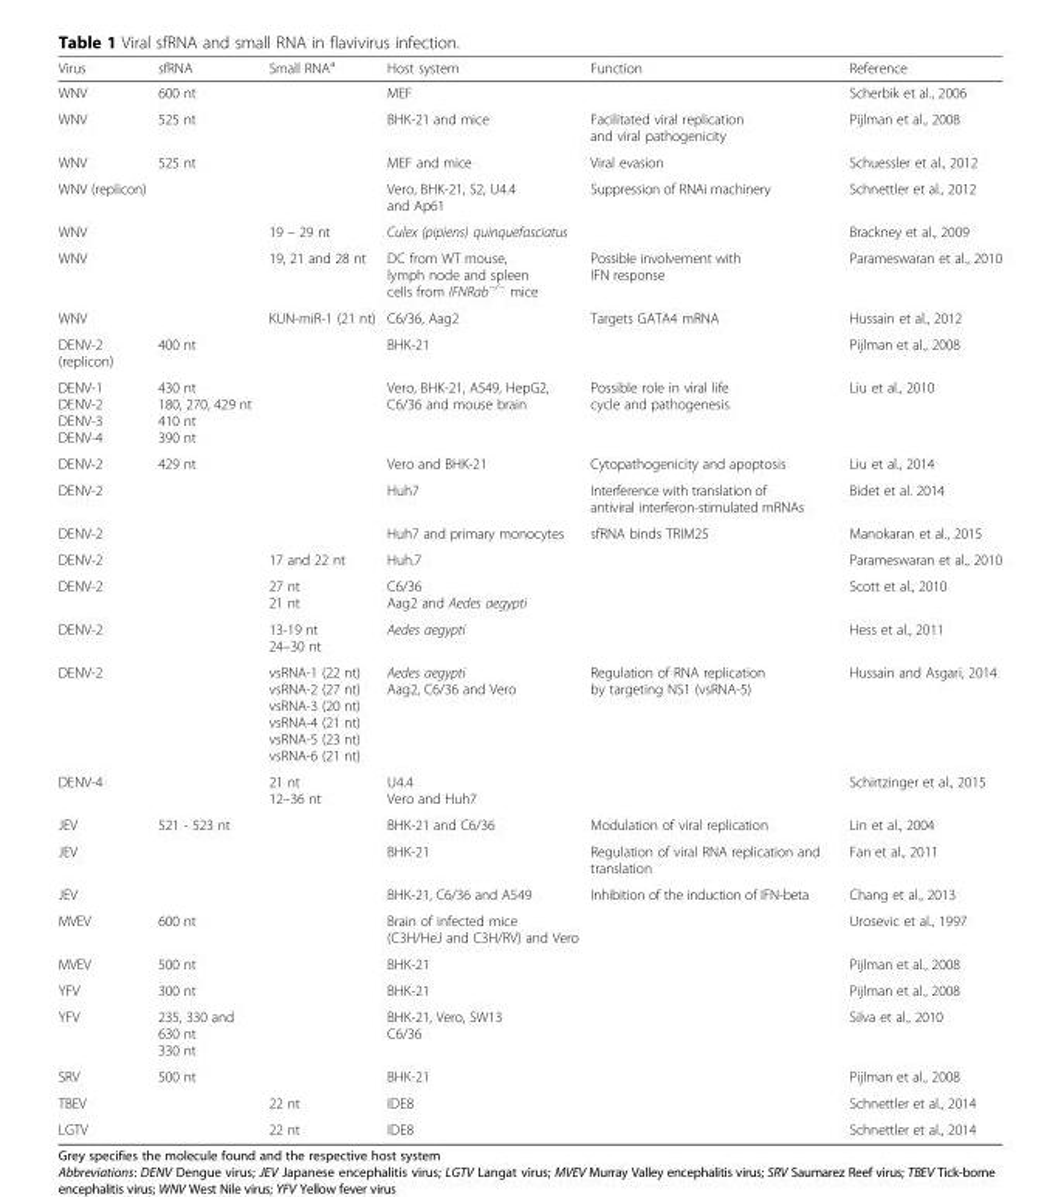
<table><thead><tr><td>Virus</td><td>sfRNA</td><td>Small RNA<sup>a</sup></td><td>Host system</td><td>Function</td><td>Reference</td></tr></thead><tbody><tr><td>WNV</td><td>600 nt</td><td></td><td>MEF</td><td></td><td>Scherbik et al., 2006</td></tr><tr><td>WNV</td><td>525 nt</td><td></td><td>BHK-21 and mice</td><td>Facilitated viral replication and viral pathogenicity</td><td>Pijlman et al., 2008</td></tr><tr><td>WNV</td><td>525 nt</td><td></td><td>MEF and mice</td><td>Viral evasion</td><td>Schuessler et al., 2012</td></tr><tr><td>WNV (replicon)</td><td></td><td></td><td>Vero, BHK-21, S2, U4.4 and Ap61</td><td>Suppression of RNAi machinery</td><td>Schnettler et al., 2012</td></tr><tr><td>WNV</td><td></td><td>19 – 29 nt</td><td>Culex (pipiens) quinquefasciatus</td><td></td><td>Brackney et al., 2009</td></tr><tr><td>WNV</td><td></td><td>19, 21 and 28 nt</td><td>DC from WT mouse, lymph node and spleen cells from IFNRab<sup>−/−</sup> mice</td><td>Possible involvement with IFN response</td><td>Parameswaran et al., 2010</td></tr><tr><td>WNV</td><td></td><td>KUN-miR-1 (21 nt)</td><td>C6/36, Aag2</td><td>Targets GATA4 mRNA</td><td>Hussain et al., 2012</td></tr><tr><td>DENV-2 (replicon)</td><td>400 nt</td><td></td><td>BHK-21</td><td></td><td>Pijlman et al., 2008</td></tr><tr><td>DENV-1 DENV-2 DENV-3 DENV-4</td><td>430 nt 180, 270, 429 nt 410 nt 390 nt</td><td></td><td>Vero, BHK-21, A549, HepG2, C6/36 and mouse brain</td><td>Possible role in viral life cycle and pathogenesis</td><td>Liu et al., 2010</td></tr><tr><td>DENV-2</td><td>429 nt</td><td></td><td>Vero and BHK-21</td><td>Cytopathogenicity and apoptosis</td><td>Liu et al., 2014</td></tr><tr><td>DENV-2</td><td></td><td></td><td>Huh7</td><td>Interference with translation of antiviral interferon-stimulated mRNAs</td><td>Bidet et al. 2014</td></tr><tr><td>DENV-2</td><td></td><td></td><td>Huh7 and primary monocytes</td><td>sfRNA binds TRIM25</td><td>Manokaran et al., 2015</td></tr><tr><td>DENV-2</td><td></td><td>17 and 22 nt</td><td>Huh.7</td><td></td><td>Parameswaran et al., 2010</td></tr><tr><td>DENV-2</td><td></td><td>27 nt 21 nt</td><td>C6/36 Aag2 and Aedes aegypti</td><td></td><td>Scott et al., 2010</td></tr><tr><td>DENV-2</td><td></td><td>13-19 nt 24–30 nt</td><td>Aedes aegypti</td><td></td><td>Hess et al., 2011</td></tr><tr><td>DENV-2</td><td></td><td>vsRNA-1 (22 nt) vsRNA-2 (27 nt) vsRNA-3 (20 nt) vsRNA-4 (21 nt) vsRNA-5 (23 nt) vsRNA-6 (21 nt)</td><td>Aedes aegypti Aag2, C6/36 and Vero</td><td>Regulation of RNA replication by targeting NS1 (vsRNA-5)</td><td>Hussain and Asgari, 2014</td></tr><tr><td>DENV-4</td><td></td><td>21 nt 12–36 nt</td><td>U4.4 Vero and Huh7</td><td></td><td>Schirtzinger et al., 2015</td></tr><tr><td>JEV</td><td>521 - 523 nt</td><td></td><td>BHK-21 and C6/36</td><td>Modulation of viral replication</td><td>Lin et al., 2004</td></tr><tr><td>JEV</td><td></td><td></td><td>BHK-21</td><td>Regulation of viral RNA replication and translation</td><td>Fan et al., 2011</td></tr><tr><td>JEV</td><td></td><td></td><td>BHK-21, C6/36 and A549</td><td>Inhibition of the induction of IFN-beta</td><td>Chang et al., 2013</td></tr><tr><td>MVEV</td><td>600 nt</td><td></td><td>Brain of infected mice (C3H/HeJ and C3H/RV) and Vero</td><td></td><td>Urosevic et al., 1997</td></tr><tr><td>MVEV</td><td>500 nt</td><td></td><td>BHK-21</td><td></td><td>Pijlman et al., 2008</td></tr><tr><td>YFV</td><td>300 nt</td><td></td><td>BHK-21</td><td></td><td>Pijlman et al., 2008</td></tr><tr><td>YFV</td><td>235, 330 and 630 nt 330 nt</td><td></td><td>BHK-21, Vero, SW13 C6/36</td><td></td><td>Silva et al., 2010</td></tr><tr><td>SRV</td><td>500 nt</td><td></td><td>BHK-21</td><td></td><td>Pijlman et al., 2008</td></tr><tr><td>TBEV</td><td></td><td>22 nt</td><td>IDE8</td><td></td><td>Schnettler et al., 2014</td></tr><tr><td>LGTV</td><td></td><td>22 nt</td><td>IDE8</td><td></td><td>Schnettler et al., 2014</td></tr></tbody></table>